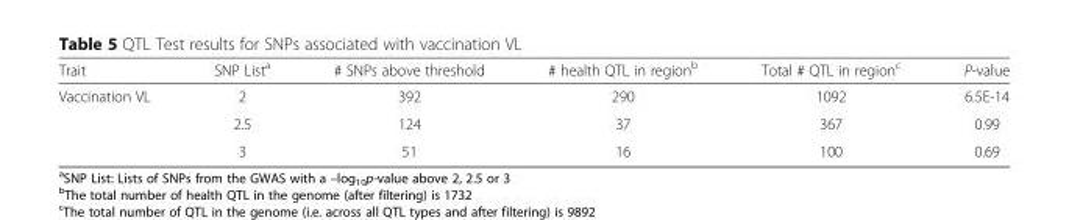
<table><thead><tr><td>Trait</td><td>SNP List<sup>a</sup></td><td># SNPs above threshold</td><td># health QTL in region<sup>b</sup></td><td>Total # QTL in region<sup>c</sup></td><td>P-value</td></tr></thead><tbody><tr><td rowspan="3">Vaccination VL</td><td>2</td><td>392</td><td>290</td><td>1092</td><td>6.5E-14</td></tr><tr><td>2.5</td><td>124</td><td>37</td><td>367</td><td>0.99</td></tr><tr><td>3</td><td>51</td><td>16</td><td>100</td><td>0.69</td></tr></tbody></table>